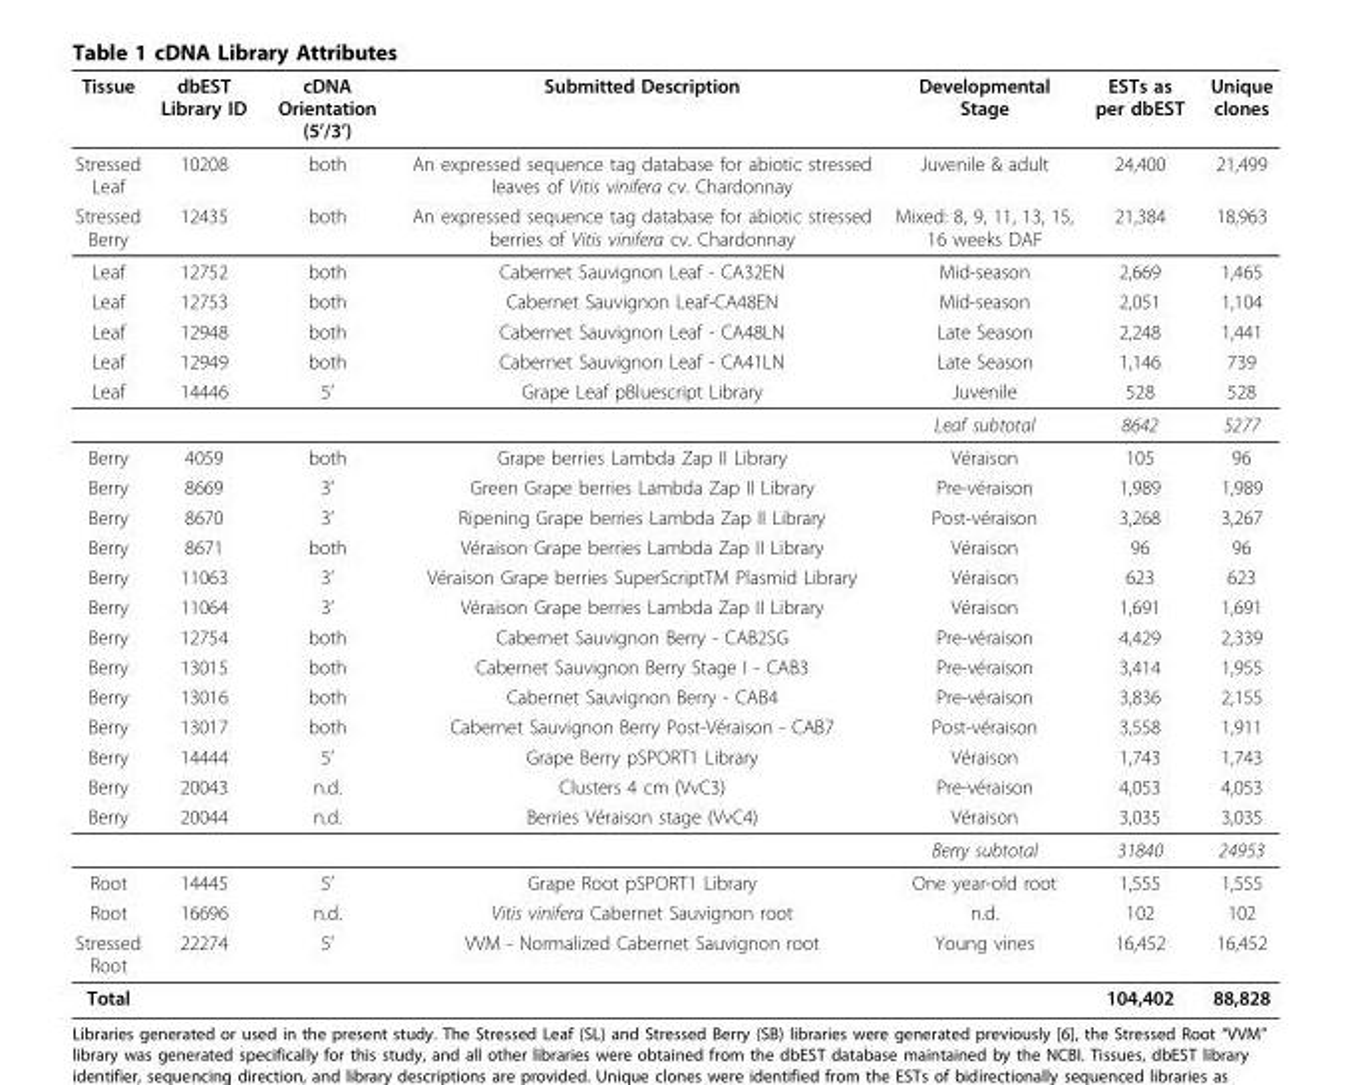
<table><thead><tr><td>Tissue</td><td>dbEST Library ID</td><td>cDNA Orientation (5’/3’)</td><td>Submitted Description</td><td>Developmental Stage</td><td>ESTs as per dbEST</td><td>Unique clones</td></tr></thead><tbody><tr><td>Stressed Leaf</td><td>10208</td><td>both</td><td>An expressed sequence tag database for abiotic stressed leaves of Vitis vinifera cv. Chardonnay</td><td>Juvenile &amp; adult</td><td>24,400</td><td>21,499</td></tr><tr><td>Stressed Berry</td><td>12435</td><td>both</td><td>An expressed sequence tag database for abiotic stressed berries of Vitis vinifera cv. Chardonnay</td><td>Mixed: 8, 9, 11, 13, 15, 16 weeks DAF</td><td>21,384</td><td>18,963</td></tr><tr><td>Leaf</td><td>12752</td><td>both</td><td>Cabernet Sauvignon Leaf - CA32EN</td><td>Mid-season</td><td>2,669</td><td>1,465</td></tr><tr><td>Leaf</td><td>12753</td><td>both</td><td>Cabernet Sauvignon Leaf-CA48EN</td><td>Mid-season</td><td>2,051</td><td>1,104</td></tr><tr><td>Leaf</td><td>12948</td><td>both</td><td>Cabernet Sauvignon Leaf - CA48LN</td><td>Late Season</td><td>2,248</td><td>1,441</td></tr><tr><td>Leaf</td><td>12949</td><td>both</td><td>Cabernet Sauvignon Leaf - CA41LN</td><td>Late Season</td><td>1,146</td><td>739</td></tr><tr><td rowspan="2">Leaf</td><td>14446</td><td>5’</td><td>Grape Leaf pBluescript Library</td><td>Juvenile</td><td>528</td><td>528</td></tr><tr><td></td><td></td><td></td><td>Leaf subtotal</td><td>8642</td><td>5277</td></tr><tr><td>Berry</td><td>4059</td><td>both</td><td>Grape berries Lambda Zap II Library</td><td>Véraison</td><td>105</td><td>96</td></tr><tr><td>Berry</td><td>8669</td><td>3’</td><td>Green Grape berries Lambda Zap II Library</td><td>Pre-véraison</td><td>1,989</td><td>1,989</td></tr><tr><td>Berry</td><td>8670</td><td>3’</td><td>Ripening Grape berries Lambda Zap II Library</td><td>Post-véraison</td><td>3,268</td><td>3,267</td></tr><tr><td>Berry</td><td>8671</td><td>both</td><td>Véraison Grape berries Lambda Zap II Library</td><td>Véraison</td><td>96</td><td>96</td></tr><tr><td>Berry</td><td>11063</td><td>3’</td><td>Véraison Grape berries SuperScriptTM Plasmid Library</td><td>Véraison</td><td>623</td><td>623</td></tr><tr><td>Berry</td><td>11064</td><td>3’</td><td>Véraison Grape berries Lambda Zap II Library</td><td>Véraison</td><td>1,691</td><td>1,691</td></tr><tr><td>Berry</td><td>12754</td><td>both</td><td>Cabernet Sauvignon Berry - CAB2SG</td><td>Pre-véraison</td><td>4,429</td><td>2,339</td></tr><tr><td>Berry</td><td>13015</td><td>both</td><td>Cabernet Sauvignon Berry Stage I - CAB3</td><td>Pre-véraison</td><td>3,414</td><td>1,955</td></tr><tr><td>Berry</td><td>13016</td><td>both</td><td>Cabernet Sauvignon Berry - CAB4</td><td>Pre-véraison</td><td>3,836</td><td>2,155</td></tr><tr><td>Berry</td><td>13017</td><td>both</td><td>Cabernet Sauvignon Berry Post-Véraison - CAB7</td><td>Post-véraison</td><td>3,558</td><td>1,911</td></tr><tr><td>Berry</td><td>14444</td><td>5’</td><td>Grape Berry pSPORT1 Library</td><td>Véraison</td><td>1,743</td><td>1,743</td></tr><tr><td>Berry</td><td>20043</td><td>n.d.</td><td>Clusters 4 cm (VvC3)</td><td>Pre-véraison</td><td>4,053</td><td>4,053</td></tr><tr><td rowspan="2">Berry</td><td>20044</td><td>n.d.</td><td>Berries Véraison stage (VvC4)</td><td>Véraison</td><td>3,035</td><td>3,035</td></tr><tr><td></td><td></td><td></td><td>Berry subtotal</td><td>31840</td><td>24953</td></tr><tr><td>Root</td><td>14445</td><td>5’</td><td>Grape Root pSPORT1 Library</td><td>One year-old root</td><td>1,555</td><td>1,555</td></tr><tr><td>Root</td><td>16696</td><td>n.d.</td><td>Vitis vinifera Cabernet Sauvignon root</td><td>n.d.</td><td>102</td><td>102</td></tr><tr><td>Stressed Root</td><td>22274</td><td>5’</td><td>VVM - Normalized Cabernet Sauvignon root</td><td>Young vines</td><td>16,452</td><td>16,452</td></tr><tr><td>Total</td><td></td><td></td><td></td><td></td><td>104,402</td><td>88,828</td></tr></tbody></table>